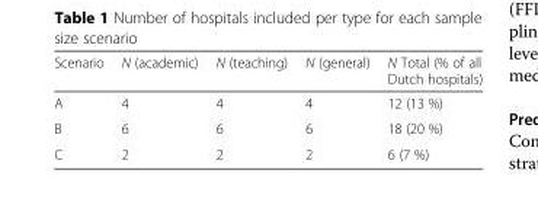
<table><thead><tr><td>Scenario</td><td>N (academic)</td><td>N (teaching)</td><td>N (general)</td><td>N Total (% of all Dutch hospitals)</td></tr></thead><tbody><tr><td>A</td><td>4</td><td>4</td><td>4</td><td>12 (13 %)</td></tr><tr><td>B</td><td>6</td><td>6</td><td>6</td><td>18 (20 %)</td></tr><tr><td>C</td><td>2</td><td>2</td><td>2</td><td>6 (7 %)</td></tr></tbody></table>